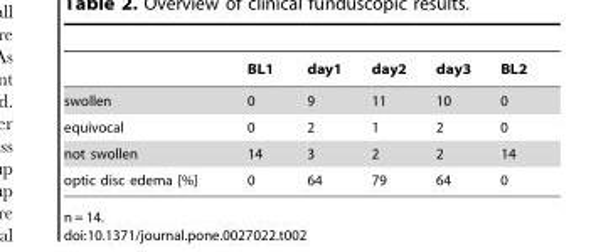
<table><thead><tr><td></td><td>BL1</td><td>day1</td><td>day2</td><td>day3</td><td>BL2</td></tr></thead><tbody><tr><td>swollen</td><td>0</td><td>9</td><td>11</td><td>10</td><td>0</td></tr><tr><td>equivocal</td><td>0</td><td>2</td><td>1</td><td>2</td><td>0</td></tr><tr><td>not swollen</td><td>14</td><td>3</td><td>2</td><td>2</td><td>14</td></tr><tr><td>optic disc edema [%]</td><td>0</td><td>64</td><td>79</td><td>64</td><td>0</td></tr></tbody></table>